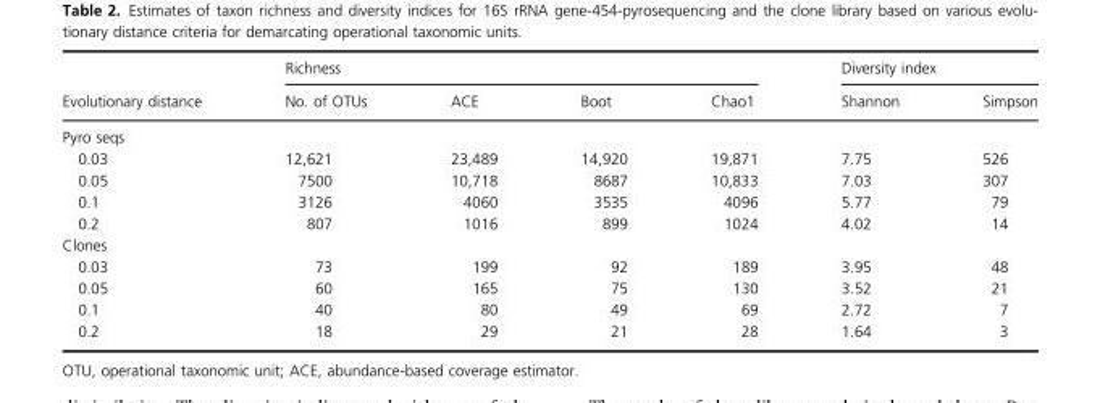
<table><thead><tr><td rowspan="2">Evolutionary distance</td><td colspan="4">Richness</td><td colspan="2">Diversity index</td></tr><tr><td>No. of OTUs</td><td>ACE</td><td>Boot</td><td>Chao1</td><td>Shannon</td><td>Simpson</td></tr></thead><tbody><tr><td colspan="7">Pyro seqs</td></tr><tr><td>0.03</td><td>12,621</td><td>23,489</td><td>14,920</td><td>19,871</td><td>7.75</td><td>526</td></tr><tr><td>0.05</td><td>7500</td><td>10,718</td><td>8687</td><td>10,833</td><td>7.03</td><td>307</td></tr><tr><td>0.1</td><td>3126</td><td>4060</td><td>3535</td><td>4096</td><td>5.77</td><td>79</td></tr><tr><td>0.2</td><td>807</td><td>1016</td><td>899</td><td>1024</td><td>4.02</td><td>14</td></tr><tr><td colspan="7">Clones</td></tr><tr><td>0.03</td><td>73</td><td>199</td><td>92</td><td>189</td><td>3.95</td><td>48</td></tr><tr><td>0.05</td><td>60</td><td>165</td><td>75</td><td>130</td><td>3.52</td><td>21</td></tr><tr><td>0.1</td><td>40</td><td>80</td><td>49</td><td>69</td><td>2.72</td><td>7</td></tr><tr><td>0.2</td><td>18</td><td>29</td><td>21</td><td>28</td><td>1.64</td><td>3</td></tr></tbody></table>